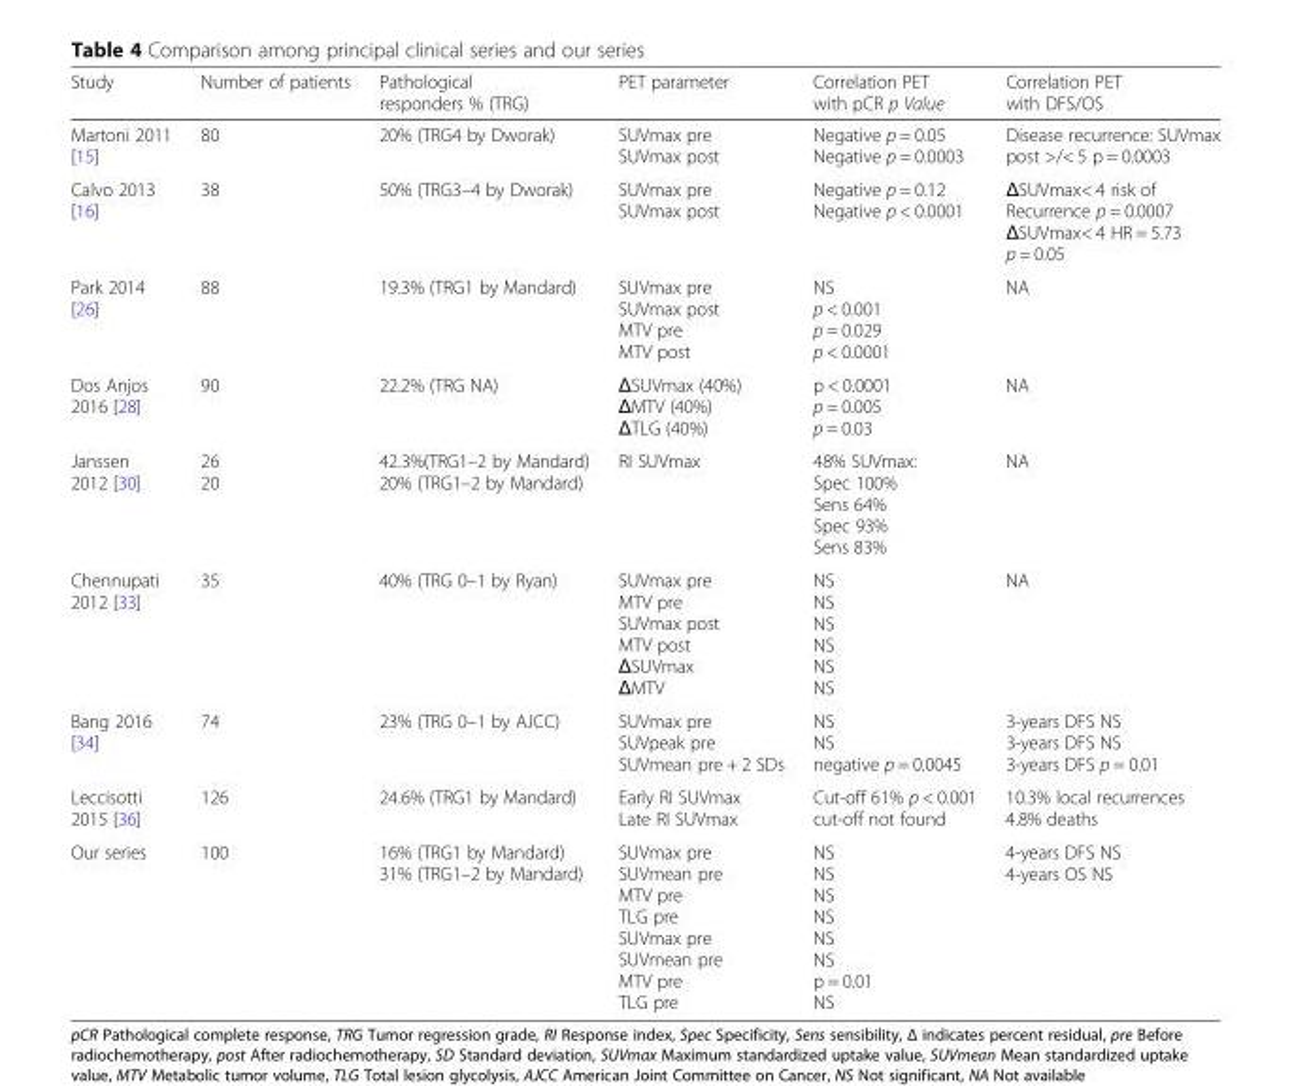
<table><thead><tr><td>Study</td><td>Number of patients</td><td>Pathological responders % (TRG)</td><td>PET parameter</td><td>Correlation PET with pCR p Value</td><td>Correlation PET with DFS/OS</td></tr></thead><tbody><tr><td>Martoni 2011 [15]</td><td>80</td><td>20% (TRG4 by Dworak)</td><td>SUVmax pre SUVmax post</td><td>Negative p = 0.05 Negative p = 0.0003</td><td>Disease recurrence: SUVmax post &gt;/&lt; 5 p = 0.0003</td></tr><tr><td>Calvo 2013 [16]</td><td>38</td><td>50% (TRG3–4 by Dworak)</td><td>SUVmax pre SUVmax post</td><td>Negative p = 0.12 Negative p &lt; 0.0001</td><td>ΔSUVmax&lt; 4 risk of Recurrence p = 0.0007 ΔSUVmax&lt; 4 HR = 5.73 p = 0.05</td></tr><tr><td>Park 2014 [26]</td><td>88</td><td>19.3% (TRG1 by Mandard)</td><td>SUVmax pre SUVmax post MTV pre MTV post</td><td>NS p &lt; 0.001 p = 0.029 p &lt; 0.0001</td><td>NA</td></tr><tr><td>Dos Anjos 2016 [28]</td><td>90</td><td>22.2% (TRG NA)</td><td>ΔSUVmax (40%) ΔMTV (40%) ΔTLG (40%)</td><td>p &lt; 0.0001 p = 0.005 p = 0.03</td><td>NA</td></tr><tr><td>Janssen 2012 [30]</td><td>26 20</td><td>42.3%(TRG1–2 by Mandard) 20% (TRG1–2 by Mandard)</td><td>RI SUVmax</td><td>48% SUVmax: Spec 100% Sens 64% Spec 93% Sens 83%</td><td>NA</td></tr><tr><td>Chennupati 2012 [33]</td><td>35</td><td>40% (TRG 0–1 by Ryan)</td><td>SUVmax pre MTV pre SUVmax post MTV post ΔSUVmax ΔMTV</td><td>NS NS NS NS NS NS</td><td>NA</td></tr><tr><td>Bang 2016 [34]</td><td>74</td><td>23% (TRG 0–1 by AJCC)</td><td>SUVmax pre SUVpeak pre SUVmean pre + 2 SDs</td><td>NS NS negative p = 0.0045</td><td>3-years DFS NS 3-years DFS NS 3-years DFS p = 0.01</td></tr><tr><td>Leccisotti 2015 [36]</td><td>126</td><td>24.6% (TRG1 by Mandard)</td><td>Early RI SUVmax Late RI SUVmax</td><td>Cut-off 61% p &lt; 0.001 cut-off not found</td><td>10.3% local recurrences 4.8% deaths</td></tr><tr><td>Our series</td><td>100</td><td>16% (TRG1 by Mandard) 31% (TRG1–2 by Mandard)</td><td>SUVmax pre SUVmean pre MTV pre TLG pre SUVmax pre SUVmean pre MTV pre TLG pre</td><td>NS NS NS NS NS NS p = 0.01 NS</td><td>4-years DFS NS 4-years OS NS</td></tr></tbody></table>